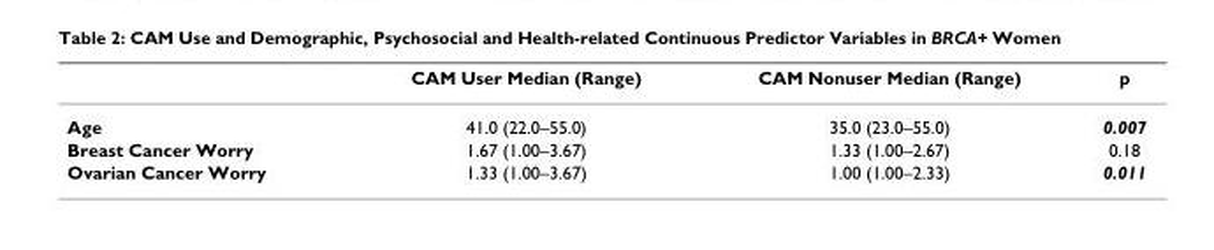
<table><thead><tr><td></td><td>CAM User Median (Range)</td><td>CAM Nonuser Median (Range)</td><td>p</td></tr></thead><tbody><tr><td>Age</td><td>41.0 (22.0–55.0)</td><td>35.0 (23.0–55.0)</td><td>0.007</td></tr><tr><td>Breast Cancer Worry</td><td>1.67 (1.00–3.67)</td><td>1.33 (1.00–2.67)</td><td>0.18</td></tr><tr><td>Ovarian Cancer Worry</td><td>1.33 (1.00–3.67)</td><td>1.00 (1.00–2.33)</td><td>0.011</td></tr></tbody></table>